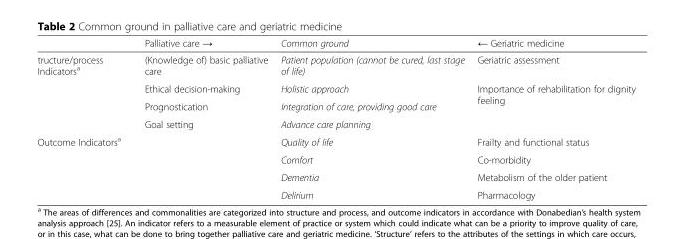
<table><thead><tr><td></td><td>Palliative care →</td><td>Common ground</td><td>← Geriatric medicine</td></tr></thead><tbody><tr><td rowspan="4">tructure/process Indicators<sup>a</sup></td><td>(Knowledge of) basic palliative care</td><td>Patient population (cannot be cured, last stage of life)</td><td>Geriatric assessment</td></tr><tr><td>Ethical decision-making</td><td>Holistic approach</td><td rowspan="3">Importance of rehabilitation for dignity feeling</td></tr><tr><td>Prognostication</td><td>Integration of care, providing good care</td></tr><tr><td>Goal setting</td><td>Advance care planning</td></tr><tr><td rowspan="4">Outcome Indicators<sup>a</sup></td><td rowspan="4"></td><td>Quality of life</td><td>Frailty and functional status</td></tr><tr><td>Comfort</td><td>Co-morbidity</td></tr><tr><td>Dementia</td><td>Metabolism of the older patient</td></tr><tr><td>Delirium</td><td>Pharmacology</td></tr></tbody></table>